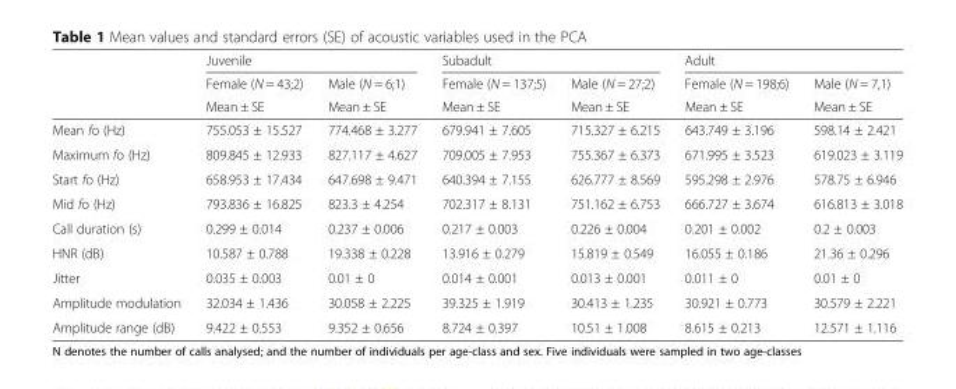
<table><thead><tr><td rowspan="3"></td><td colspan="2">Juvenile</td><td colspan="2">Subadult</td><td colspan="2">Adult</td></tr><tr><td rowspan="2">Female (N = 43;2) Mean ± SE</td><td rowspan="2">Male (N = 6;1) Mean ± SE</td><td rowspan="2">Female (N = 137;5) Mean ± SE</td><td rowspan="2">Male (N = 27;2) Mean ± SE</td><td rowspan="2">Female (N = 198;6) Mean ± SE</td><td rowspan="2">Male (N = 7,1) Mean ± SE</td></tr><tr></tr></thead><tbody><tr><td>Mean fo (Hz)</td><td>755.053 ± 15.527</td><td>774.468 ± 3.277</td><td>679.941 ± 7.605</td><td>715.327 ± 6.215</td><td>643.749 ± 3.196</td><td>598.14 ± 2.421</td></tr><tr><td>Maximum fo (Hz)</td><td>809.845 ± 12.933</td><td>827.117 ± 4.627</td><td>709.005 ± 7.953</td><td>755.367 ± 6.373</td><td>671.995 ± 3.523</td><td>619.023 ± 3.119</td></tr><tr><td>Start fo (Hz)</td><td>658.953 ± 17.434</td><td>647.698 ± 9.471</td><td>640.394 ± 7.155</td><td>626.777 ± 8.569</td><td>595.298 ± 2.976</td><td>578.75 ± 6.946</td></tr><tr><td>Mid fo (Hz)</td><td>793.836 ± 16.825</td><td>823.3 ± 4.254</td><td>702.317 ± 8.131</td><td>751.162 ± 6.753</td><td>666.727 ± 3.674</td><td>616.813 ± 3.018</td></tr><tr><td>Call duration (s)</td><td>0.299 ± 0.014</td><td>0.237 ± 0.006</td><td>0.217 ± 0.003</td><td>0.226 ± 0.004</td><td>0.201 ± 0.002</td><td>0.2 ± 0.003</td></tr><tr><td>HNR (dB)</td><td>10.587 ± 0.788</td><td>19.338 ± 0.228</td><td>13.916 ± 0.279</td><td>15.819 ± 0.549</td><td>16.055 ± 0.186</td><td>21.36 ± 0.296</td></tr><tr><td>Jitter</td><td>0.035 ± 0.003</td><td>0.01 ± 0</td><td>0.014 ± 0.001</td><td>0.013 ± 0.001</td><td>0.011 ± 0</td><td>0.01 ± 0</td></tr><tr><td>Amplitude modulation</td><td>32.034 ± 1.436</td><td>30.058 ± 2.225</td><td>39.325 ± 1.919</td><td>30.413 ± 1.235</td><td>30.921 ± 0.773</td><td>30.579 ± 2.221</td></tr><tr><td>Amplitude range (dB)</td><td>9.422 ± 0.553</td><td>9.352 ± 0.656</td><td>8.724 ± 0.397</td><td>10.51 ± 1.008</td><td>8.615 ± 0.213</td><td>12.571 ± 1.116</td></tr></tbody></table>